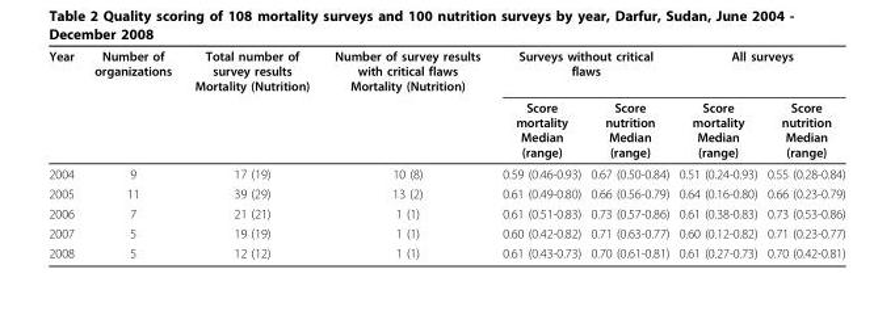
<table><thead><tr><td rowspan="2">Year</td><td rowspan="2">Number of organizations</td><td rowspan="2">Total number of survey results Mortality (Nutrition)</td><td rowspan="2">Number of survey results with critical flaws Mortality (Nutrition)</td><td colspan="2">Surveys without critical flaws</td><td colspan="2">All surveys</td></tr><tr><td>Score mortality Median (range)</td><td>Score nutrition Median (range)</td><td>Score mortality Median (range)</td><td>Score nutrition Median (range)</td></tr></thead><tbody><tr><td>2004</td><td>9</td><td>17 (19)</td><td>10 (8)</td><td>0.59 (0.46-0.93)</td><td>0.67 (0.50-0.84)</td><td>0.51 (0.24-0.93)</td><td>0.55 (0.28-0.84)</td></tr><tr><td>2005</td><td>11</td><td>39 (29)</td><td>13 (2)</td><td>0.61 (0.49-0.80)</td><td>0.66 (0.56-0.79)</td><td>0.64 (0.16-0.80)</td><td>0.66 (0.23-0.79)</td></tr><tr><td>2006</td><td>7</td><td>21 (21)</td><td>1 (1)</td><td>0.61 (0.51-0.83)</td><td>0.73 (0.57-0.86)</td><td>0.61 (0.38-0.83)</td><td>0.73 (0.53-0.86)</td></tr><tr><td>2007</td><td>5</td><td>19 (19)</td><td>1 (1)</td><td>0.60 (0.42-0.82)</td><td>0.71 (0.63-0.77)</td><td>0.60 (0.12-0.82)</td><td>0.71 (0.23-0.77)</td></tr><tr><td>2008</td><td>5</td><td>12 (12)</td><td>1 (1)</td><td>0.61 (0.43-0.73)</td><td>0.70 (0.61-0.81)</td><td>0.61 (0.27-0.73)</td><td>0.70 (0.42-0.81)</td></tr></tbody></table>